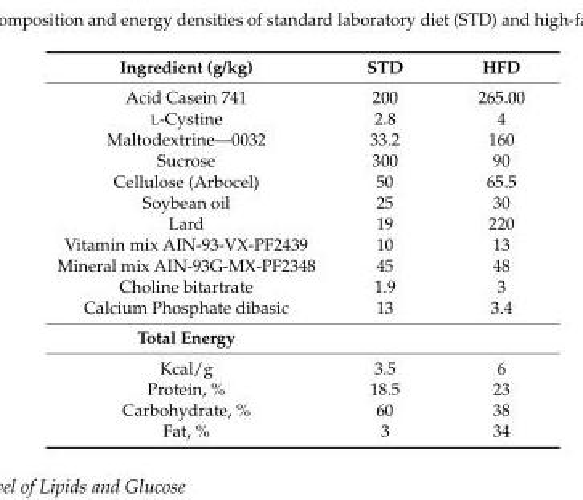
<table><thead><tr><td>Ingredient (g/kg)</td><td>STD</td><td>HFD</td></tr></thead><tbody><tr><td>Acid Casein 741</td><td>200</td><td>265.00</td></tr><tr><td>L-Cystine</td><td>2.8</td><td>4</td></tr><tr><td>Maltodextrine—0032</td><td>33.2</td><td>160</td></tr><tr><td>Sucrose</td><td>300</td><td>90</td></tr><tr><td>Cellulose (Arbocel)</td><td>50</td><td>65.5</td></tr><tr><td>Soybean oil</td><td>25</td><td>30</td></tr><tr><td>Lard</td><td>19</td><td>220</td></tr><tr><td>Vitamin mix AIN-93-VX-PF2439</td><td>10</td><td>13</td></tr><tr><td>Mineral mix AIN-93G-MX-PF2348</td><td>45</td><td>48</td></tr><tr><td>Choline bitartrate</td><td>1.9</td><td>3</td></tr><tr><td>Calcium Phosphate dibasic</td><td>13</td><td>3.4</td></tr><tr><td colspan="3">Total Energy</td></tr><tr><td>Kcal/g</td><td>3.5</td><td>6</td></tr><tr><td>Protein, %</td><td>18.5</td><td>23</td></tr><tr><td>Carbohydrate, %</td><td>60</td><td>38</td></tr><tr><td>Fat, %</td><td>3</td><td>34</td></tr></tbody></table>